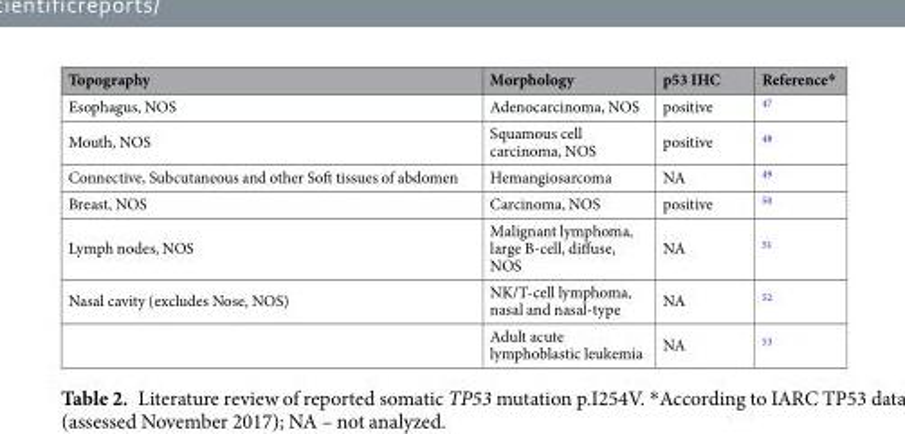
<table><thead><tr><td>Topography</td><td>Morphology</td><td>p53 IHC</td><td>Reference*</td></tr></thead><tbody><tr><td>Esophagus, NOS</td><td>Adenocarcinoma, NOS</td><td>positive</td><td><sup>47</sup></td></tr><tr><td>Mouth, NOS</td><td>Squamous cell carcinoma, NOS</td><td>positive</td><td><sup>48</sup></td></tr><tr><td>Connective, Subcutaneous and other Soft tissues of abdomen</td><td>Hemangiosarcoma</td><td>NA</td><td><sup>49</sup></td></tr><tr><td>Breast, NOS</td><td>Carcinoma, NOS</td><td>positive</td><td><sup>50</sup></td></tr><tr><td>Lymph nodes, NOS</td><td>Malignant lymphoma, large B-cell, diffuse, NOS</td><td>NA</td><td><sup>51</sup></td></tr><tr><td rowspan="2">Nasal cavity (excludes Nose, NOS)</td><td>NK/T-cell lymphoma, nasal and nasal-type</td><td>NA</td><td><sup>52</sup></td></tr><tr><td>Adult acute lymphoblastic leukemia</td><td>NA</td><td><sup>53</sup></td></tr></tbody></table>